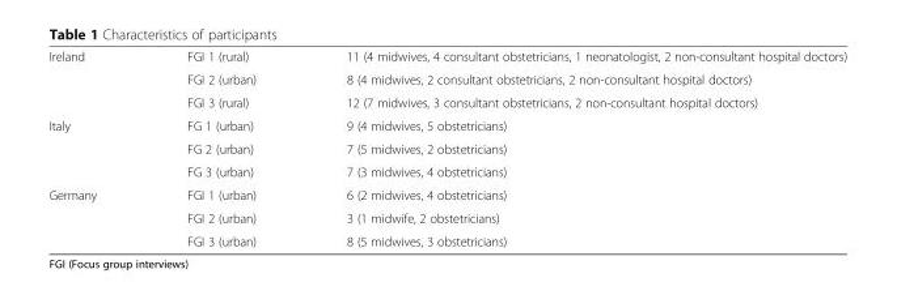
<table><tbody><tr><td rowspan="3">Ireland</td><td>FGI 1 (rural)</td><td>11 (4 midwives, 4 consultant obstetricians, 1 neonatologist, 2 non-consultant hospital doctors)</td></tr><tr><td>FGI 2 (urban)</td><td>8 (4 midwives, 2 consultant obstetricians, 2 non-consultant hospital doctors)</td></tr><tr><td>FGI 3 (rural)</td><td>12 (7 midwives, 3 consultant obstetricians, 2 non-consultant hospital doctors)</td></tr><tr><td rowspan="3">Italy</td><td>FG 1 (urban)</td><td>9 (4 midwives, 5 obstetricians)</td></tr><tr><td>FG 2 (urban)</td><td>7 (5 midwives, 2 obstetricians)</td></tr><tr><td>FG 3 (urban)</td><td>7 (3 midwives, 4 obstetricians)</td></tr><tr><td rowspan="3">Germany</td><td>FGI 1 (urban)</td><td>6 (2 midwives, 4 obstetricians)</td></tr><tr><td>FGI 2 (urban)</td><td>3 (1 midwife, 2 obstetricians)</td></tr><tr><td>FGI 3 (urban)</td><td>8 (5 midwives, 3 obstetricians)</td></tr></tbody></table>